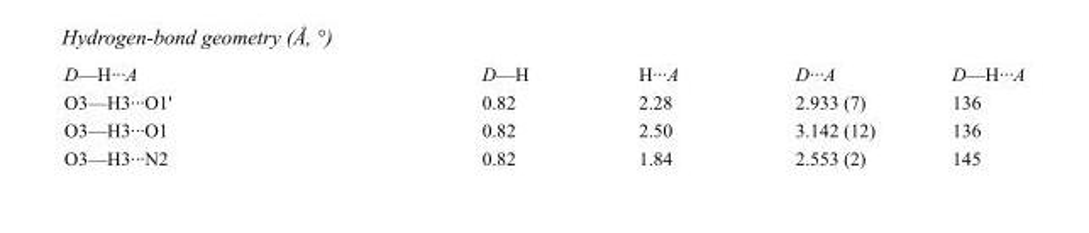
<table><tbody><tr><td>D—H···A</td><td>D—H</td><td>H···A</td><td>D···A</td><td>D—H···A</td></tr><tr><td>O3—H3···O1&#x27;</td><td>0.82</td><td>2.28</td><td>2.933 (7)</td><td>136</td></tr><tr><td>O3—H3···O1</td><td>0.82</td><td>2.50</td><td>3.142 (12)</td><td>136</td></tr><tr><td>O3—H3···N2</td><td>0.82</td><td>1.84</td><td>2.553 (2)</td><td>145</td></tr></tbody></table>